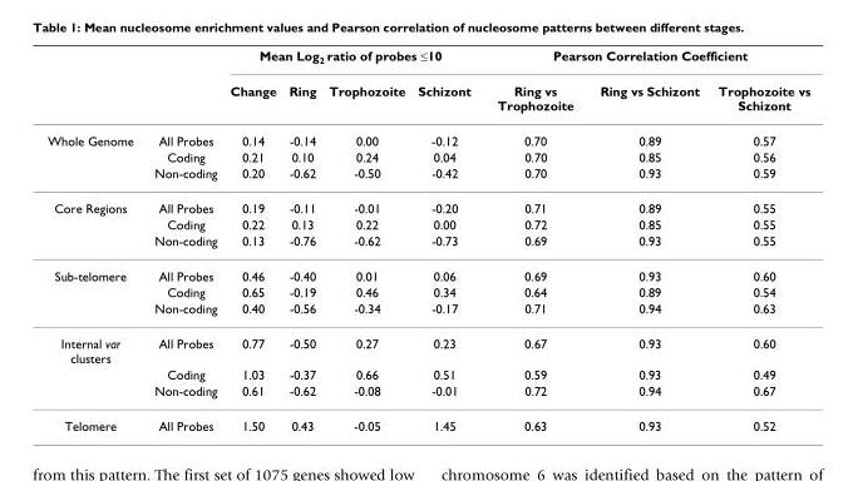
<table><thead><tr><td rowspan="2"></td><td rowspan="2"></td><td colspan="4">Mean Log<sub>2</sub> ratio of probes ≤10</td><td colspan="3">Pearson Correlation Coefficient</td></tr><tr><td>Change</td><td>Ring</td><td>Trophozoite</td><td>Schizont</td><td>Ring vs Trophozoite</td><td>Ring vs Schizont</td><td>Trophozoite vs Schizont</td></tr></thead><tbody><tr><td rowspan="3">Whole Genome</td><td>All Probes</td><td>0.14</td><td>-0.14</td><td>0.00</td><td>-0.12</td><td>0.70</td><td>0.89</td><td>0.57</td></tr><tr><td>Coding</td><td>0.21</td><td>0.10</td><td>0.24</td><td>0.04</td><td>0.70</td><td>0.85</td><td>0.56</td></tr><tr><td>Non-coding</td><td>0.20</td><td>-0.62</td><td>-0.50</td><td>-0.42</td><td>0.70</td><td>0.93</td><td>0.59</td></tr><tr><td rowspan="3">Core Regions</td><td>All Probes</td><td>0.19</td><td>-0.11</td><td>-0.01</td><td>-0.20</td><td>0.71</td><td>0.89</td><td>0.55</td></tr><tr><td>Coding</td><td>0.22</td><td>0.13</td><td>0.22</td><td>0.00</td><td>0.72</td><td>0.85</td><td>0.55</td></tr><tr><td>Non-coding</td><td>0.13</td><td>-0.76</td><td>-0.62</td><td>-0.73</td><td>0.69</td><td>0.93</td><td>0.55</td></tr><tr><td rowspan="3">Sub-telomere</td><td>All Probes</td><td>0.46</td><td>-0.40</td><td>0.01</td><td>0.06</td><td>0.69</td><td>0.93</td><td>0.60</td></tr><tr><td>Coding</td><td>0.65</td><td>-0.19</td><td>0.46</td><td>0.34</td><td>0.64</td><td>0.89</td><td>0.54</td></tr><tr><td>Non-coding</td><td>0.40</td><td>-0.56</td><td>-0.34</td><td>-0.17</td><td>0.71</td><td>0.94</td><td>0.63</td></tr><tr><td rowspan="3">Internal var clusters</td><td>All Probes</td><td>0.77</td><td>-0.50</td><td>0.27</td><td>0.23</td><td>0.67</td><td>0.93</td><td>0.60</td></tr><tr><td>Coding</td><td>1.03</td><td>-0.37</td><td>0.66</td><td>0.51</td><td>0.59</td><td>0.93</td><td>0.49</td></tr><tr><td>Non-coding</td><td>0.61</td><td>-0.62</td><td>-0.08</td><td>-0.01</td><td>0.72</td><td>0.94</td><td>0.67</td></tr><tr><td>Telomere</td><td>All Probes</td><td>1.50</td><td>0.43</td><td>-0.05</td><td>1.45</td><td>0.63</td><td>0.93</td><td>0.52</td></tr></tbody></table>